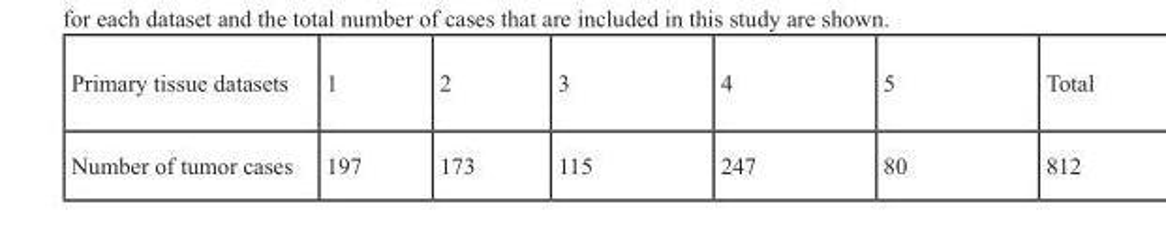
<table><thead><tr><td>Primary tissue datasets</td><td>1</td><td>2</td><td>3</td><td>4</td><td>5</td><td>Total</td></tr></thead><tbody><tr><td>Number of tumor cases</td><td>197</td><td>173</td><td>115</td><td>247</td><td>80</td><td>812</td></tr></tbody></table>